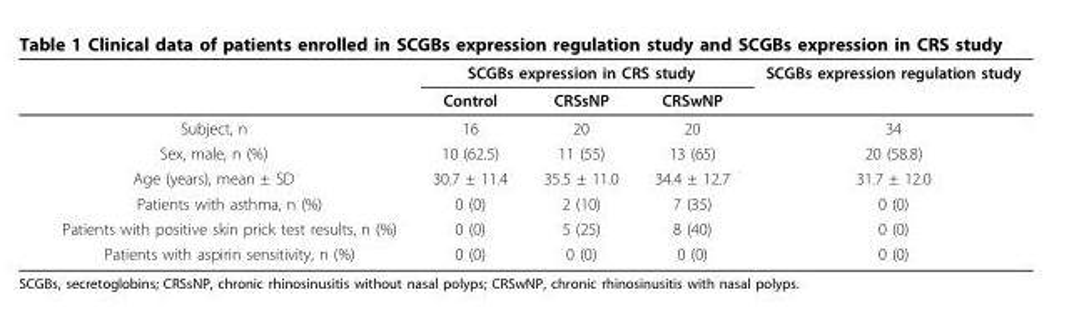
<table><thead><tr><td rowspan="2"></td><td colspan="3">SCGBs expression in CRS study</td><td rowspan="2">SCGBs expression regulation study</td></tr><tr><td>Control</td><td>CRSsNP</td><td>CRSwNP</td></tr></thead><tbody><tr><td>Subject, n</td><td>16</td><td>20</td><td>20</td><td>34</td></tr><tr><td>Sex, male, n (%)</td><td>10 (62.5)</td><td>11 (55)</td><td>13 (65)</td><td>20 (58.8)</td></tr><tr><td>Age (years), mean ± SD</td><td>30.7 ± 11.4</td><td>35.5 ± 11.0</td><td>34.4 ± 12.7</td><td>31.7 ± 12.0</td></tr><tr><td>Patients with asthma, n (%)</td><td>0 (0)</td><td>2 (10)</td><td>7 (35)</td><td>0 (0)</td></tr><tr><td>Patients with positive skin prick test results, n (%)</td><td>0 (0)</td><td>5 (25)</td><td>8 (40)</td><td>0 (0)</td></tr><tr><td>Patients with aspirin sensitivity, n (%)</td><td>0 (0)</td><td>0 (0)</td><td>0 (0)</td><td>0 (0)</td></tr></tbody></table>